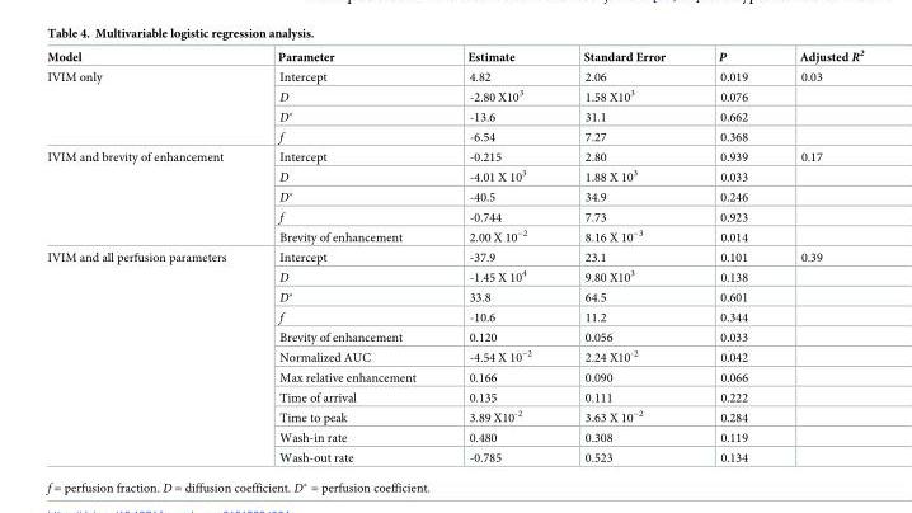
<table><thead><tr><td>Model</td><td>Parameter</td><td>Estimate</td><td>Standard Error</td><td>P</td><td>Adjusted R<sup>2</sup></td></tr></thead><tbody><tr><td rowspan="4">IVIM only</td><td>Intercept</td><td>4.82</td><td>2.06</td><td>0.019</td><td>0.03</td></tr><tr><td>D</td><td>-2.80 X10<sup>3</sup></td><td>1.58 X10<sup>3</sup></td><td>0.076</td><td></td></tr><tr><td>D*</td><td>-13.6</td><td>31.1</td><td>0.662</td><td></td></tr><tr><td>f</td><td>-6.54</td><td>7.27</td><td>0.368</td><td></td></tr><tr><td rowspan="5">IVIM and brevity of enhancement</td><td>Intercept</td><td>-0.215</td><td>2.80</td><td>0.939</td><td>0.17</td></tr><tr><td>D</td><td>-4.01 X 10<sup>3</sup></td><td>1.88 X 10<sup>3</sup></td><td>0.033</td><td></td></tr><tr><td>D*</td><td>-40.5</td><td>34.9</td><td>0.246</td><td></td></tr><tr><td>f</td><td>-0.744</td><td>7.73</td><td>0.923</td><td></td></tr><tr><td>Brevity of enhancement</td><td>2.00 X 10<sup>−2</sup></td><td>8.16 X 10<sup>−3</sup></td><td>0.014</td><td></td></tr><tr><td rowspan="11">IVIM and all perfusion parameters</td><td>Intercept</td><td>-37.9</td><td>23.1</td><td>0.101</td><td>0.39</td></tr><tr><td>D</td><td>-1.45 X 10<sup>4</sup></td><td>9.80 X10<sup>3</sup></td><td>0.138</td><td></td></tr><tr><td>D*</td><td>33.8</td><td>64.5</td><td>0.601</td><td></td></tr><tr><td>f</td><td>-10.6</td><td>11.2</td><td>0.344</td><td></td></tr><tr><td>Brevity of enhancement</td><td>0.120</td><td>0.056</td><td>0.033</td><td></td></tr><tr><td>Normalized AUC</td><td>-4.54 X 10<sup>−2</sup></td><td>2.24 X10<sup>-2</sup></td><td>0.042</td><td></td></tr><tr><td>Max relative enhancement</td><td>0.166</td><td>0.090</td><td>0.066</td><td></td></tr><tr><td>Time of arrival</td><td>0.135</td><td>0.111</td><td>0.222</td><td></td></tr><tr><td>Time to peak</td><td>3.89 X10<sup>-2</sup></td><td>3.63 X 10<sup>−2</sup></td><td>0.284</td><td></td></tr><tr><td>Wash-in rate</td><td>0.480</td><td>0.308</td><td>0.119</td><td></td></tr><tr><td>Wash-out rate</td><td>-0.785</td><td>0.523</td><td>0.134</td><td></td></tr></tbody></table>